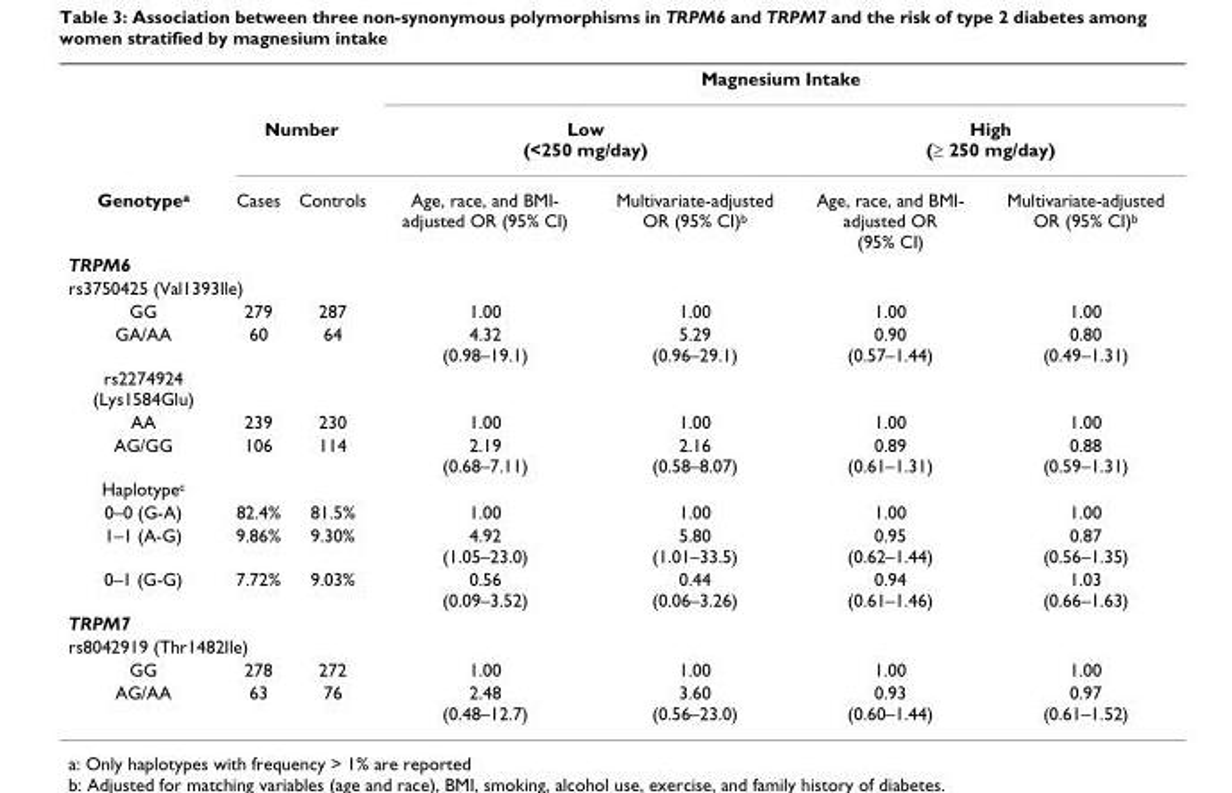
<table><thead><tr><td rowspan="3">Genotype<sup>a</sup></td><td></td><td></td><td colspan="4">Magnesium Intake</td></tr><tr><td colspan="2">Number</td><td colspan="2">Low (&lt;250 mg/day)</td><td colspan="2">High (≥ 250 mg/day)</td></tr><tr><td>Cases</td><td>Controls</td><td>Age, race, and BMI- adjusted OR (95% CI)</td><td>Multivariate-adjusted OR (95% CI)<sup>b</sup></td><td>Age, race, and BMI- adjusted OR (95% CI)</td><td>Multivariate-adjusted OR (95% CI)<sup>b</sup></td></tr></thead><tbody><tr><td colspan="7">TRPM6</td></tr><tr><td colspan="7">rs3750425 (Val1393Ile)</td></tr><tr><td>GG</td><td>279</td><td>287</td><td>1.00</td><td>1.00</td><td>1.00</td><td>1.00</td></tr><tr><td>GA/AA</td><td>60</td><td>64</td><td>4.32 (0.98–19.1)</td><td>5.29 (0.96–29.1)</td><td>0.90 (0.57–1.44)</td><td>0.80 (0.49–1.31)</td></tr><tr><td colspan="7">rs2274924 (Lys1584Glu)</td></tr><tr><td>AA</td><td>239</td><td>230</td><td>1.00</td><td>1.00</td><td>1.00</td><td>1.00</td></tr><tr><td>AG/GG</td><td>106</td><td>114</td><td>2.19 (0.68–7.11)</td><td>2.16 (0.58–8.07)</td><td>0.89 (0.61–1.31)</td><td>0.88 (0.59–1.31)</td></tr><tr><td colspan="7">Haplotype<sup>c</sup></td></tr><tr><td>0–0 (G-A)</td><td>82.4%</td><td>81.5%</td><td>1.00</td><td>1.00</td><td>1.00</td><td>1.00</td></tr><tr><td>1–1 (A-G)</td><td>9.86%</td><td>9.30%</td><td>4.92 (1.05–23.0)</td><td>5.80 (1.01–33.5)</td><td>0.95 (0.62–1.44)</td><td>0.87 (0.56–1.35)</td></tr><tr><td>0–1 (G-G)</td><td>7.72%</td><td>9.03%</td><td>0.56 (0.09–3.52)</td><td>0.44 (0.06–3.26)</td><td>0.94 (0.61–1.46)</td><td>1.03 (0.66–1.63)</td></tr><tr><td colspan="7">TRPM7</td></tr><tr><td colspan="7">rs8042919 (Thr1482Ile)</td></tr><tr><td>GG</td><td>278</td><td>272</td><td>1.00</td><td>1.00</td><td>1.00</td><td>1.00</td></tr><tr><td>AG/AA</td><td>63</td><td>76</td><td>2.48 (0.48–12.7)</td><td>3.60 (0.56–23.0)</td><td>0.93 (0.60–1.44)</td><td>0.97 (0.61–1.52)</td></tr></tbody></table>